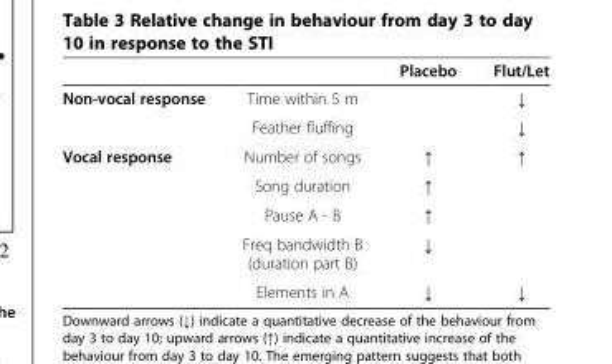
<table><thead><tr><td></td><td></td><td>Placebo</td><td>Flut/Let</td></tr></thead><tbody><tr><td rowspan="2">Non-vocal response</td><td>Time within 5 m</td><td></td><td>↓</td></tr><tr><td>Feather fluffing</td><td></td><td>↓</td></tr><tr><td rowspan="5">Vocal response</td><td>Number of songs</td><td>↑</td><td>↑</td></tr><tr><td>Song duration</td><td>↑</td><td></td></tr><tr><td>Pause A - B</td><td>↑</td><td></td></tr><tr><td>Freq bandwidth B (duration part B)</td><td>↓</td><td></td></tr><tr><td>Elements in A</td><td>↓</td><td>↓</td></tr></tbody></table>